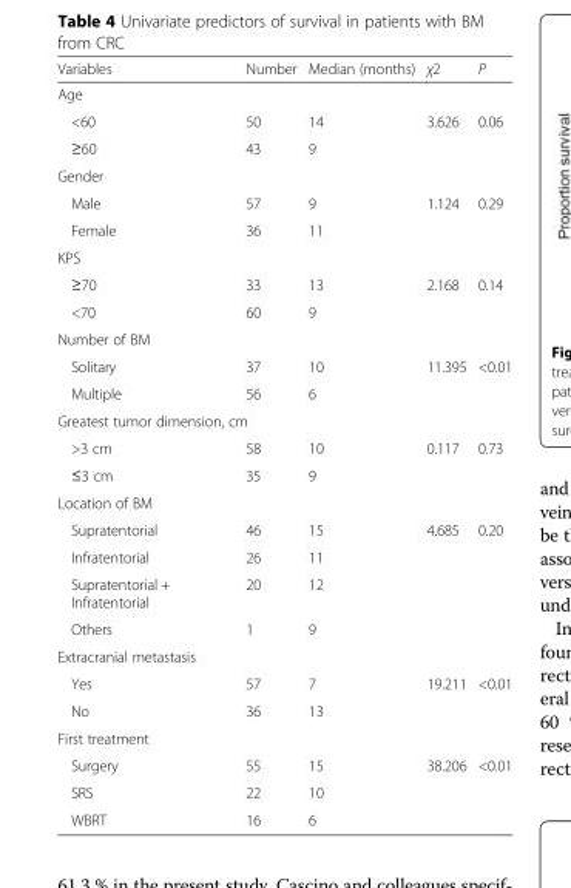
<table><thead><tr><td>Variables</td><td>Number</td><td>Median (months)</td><td>χ2</td><td>P</td></tr></thead><tbody><tr><td colspan="5">Age</td></tr><tr><td>&lt;60</td><td>50</td><td>14</td><td>3.626</td><td>0.06</td></tr><tr><td>≥60</td><td>43</td><td>9</td><td></td><td></td></tr><tr><td colspan="5">Gender</td></tr><tr><td>Male</td><td>57</td><td>9</td><td>1.124</td><td>0.29</td></tr><tr><td>Female</td><td>36</td><td>11</td><td></td><td></td></tr><tr><td colspan="5">KPS</td></tr><tr><td>≥70</td><td>33</td><td>13</td><td>2.168</td><td>0.14</td></tr><tr><td>&lt;70</td><td>60</td><td>9</td><td></td><td></td></tr><tr><td colspan="5">Number of BM</td></tr><tr><td>Solitary</td><td>37</td><td>10</td><td>11.395</td><td>&lt;0.01</td></tr><tr><td>Multiple</td><td>56</td><td>6</td><td></td><td></td></tr><tr><td colspan="5">Greatest tumor dimension, cm</td></tr><tr><td>&gt;3 cm</td><td>58</td><td>10</td><td>0.117</td><td>0.73</td></tr><tr><td>≤3 cm</td><td>35</td><td>9</td><td></td><td></td></tr><tr><td colspan="5">Location of BM</td></tr><tr><td>Supratentorial</td><td>46</td><td>15</td><td>4.685</td><td>0.20</td></tr><tr><td>Infratentorial</td><td>26</td><td>11</td><td></td><td></td></tr><tr><td>Supratentorial + Infratentorial</td><td>20</td><td>12</td><td></td><td></td></tr><tr><td>Others</td><td>1</td><td>9</td><td></td><td></td></tr><tr><td colspan="5">Extracranial metastasis</td></tr><tr><td>Yes</td><td>57</td><td>7</td><td>19.211</td><td>&lt;0.01</td></tr><tr><td>No</td><td>36</td><td>13</td><td></td><td></td></tr><tr><td colspan="5">First treatment</td></tr><tr><td>Surgery</td><td>55</td><td>15</td><td>38.206</td><td>&lt;0.01</td></tr><tr><td>SRS</td><td>22</td><td>10</td><td></td><td></td></tr><tr><td>WBRT</td><td>16</td><td>6</td><td></td><td></td></tr></tbody></table>